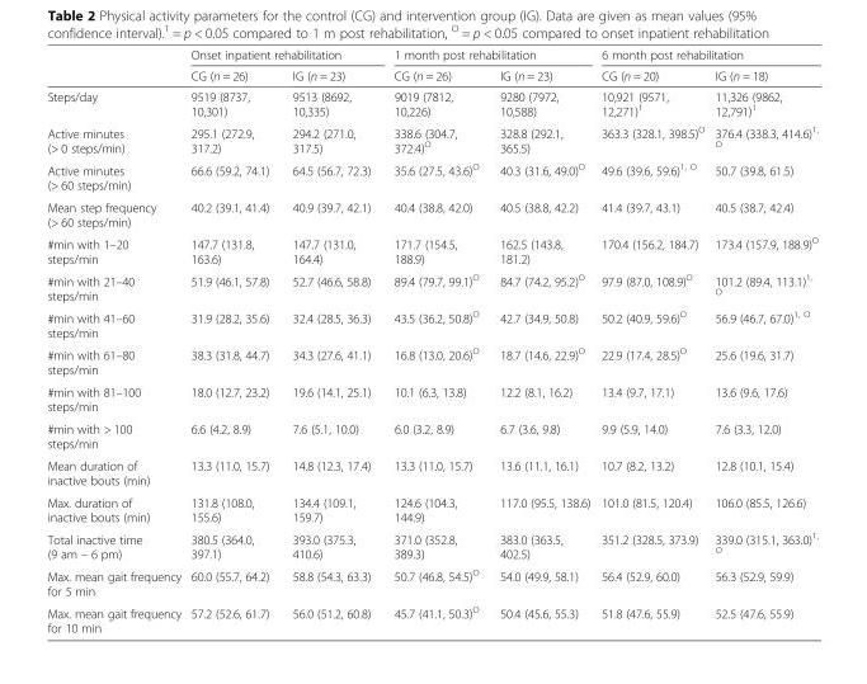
<table><thead><tr><td rowspan="2"></td><td colspan="2">Onset inpatient rehabilitation</td><td colspan="2">1 month post rehabilitation</td><td colspan="2">6 month post rehabilitation</td></tr><tr><td>CG (n = 26)</td><td>IG (n = 23)</td><td>CG (n = 26)</td><td>IG (n = 23)</td><td>CG (n = 20)</td><td>IG (n = 18)</td></tr></thead><tbody><tr><td>Steps/day</td><td>9519 (8737, 10,301)</td><td>9513 (8692, 10,335)</td><td>9019 (7812, 10,226)</td><td>9280 (7972, 10,588)</td><td>10,921 (9571, 12,271)<sup>1</sup></td><td>11,326 (9862, 12,791)<sup>1</sup></td></tr><tr><td>Active minutes (&gt; 0 steps/min)</td><td>295.1 (272.9, 317.2)</td><td>294.2 (271.0, 317.5)</td><td>338.6 (304.7, 372.4)<sup>O</sup></td><td>328.8 (292.1, 365.5)</td><td>363.3 (328.1, 398.5)<sup>O</sup></td><td>376.4 (338.3, 414.6)<sup>1, O</sup></td></tr><tr><td>Active minutes (&gt; 60 steps/min)</td><td>66.6 (59.2, 74.1)</td><td>64.5 (56.7, 72.3)</td><td>35.6 (27.5, 43.6)<sup>O</sup></td><td>40.3 (31.6, 49.0)<sup>O</sup></td><td>49.6 (39.6, 59.6)<sup>1, O</sup></td><td>50.7 (39.8, 61.5)</td></tr><tr><td>Mean step frequency (&gt; 60 steps/min)</td><td>40.2 (39.1, 41.4)</td><td>40.9 (39.7, 42.1)</td><td>40.4 (38.8, 42.0)</td><td>40.5 (38.8, 42.2)</td><td>41.4 (39.7, 43.1)</td><td>40.5 (38.7, 42.4)</td></tr><tr><td>#min with 1–20 steps/min</td><td>147.7 (131.8, 163.6)</td><td>147.7 (131.0, 164.4)</td><td>171.7 (154.5, 188.9)</td><td>162.5 (143.8, 181.2)</td><td>170.4 (156.2, 184.7)</td><td>173.4 (157.9, 188.9)<sup>O</sup></td></tr><tr><td>#min with 21–40 steps/min</td><td>51.9 (46.1, 57.8)</td><td>52.7 (46.6, 58.8)</td><td>89.4 (79.7, 99.1)<sup>O</sup></td><td>84.7 (74.2, 95.2)<sup>O</sup></td><td>97.9 (87.0, 108.9)<sup>O</sup></td><td>101.2 (89.4, 113.1)<sup>1, O</sup></td></tr><tr><td>#min with 41–60 steps/min</td><td>31.9 (28.2, 35.6)</td><td>32.4 (28.5, 36.3)</td><td>43.5 (36.2, 50.8)<sup>O</sup></td><td>42.7 (34.9, 50.8)</td><td>50.2 (40.9, 59.6)<sup>O</sup></td><td>56.9 (46.7, 67.0)<sup>1, O</sup></td></tr><tr><td>#min with 61–80 steps/min</td><td>38.3 (31.8, 44.7)</td><td>34.3 (27.6, 41.1)</td><td>16.8 (13.0, 20.6)<sup>O</sup></td><td>18.7 (14.6, 22.9)<sup>O</sup></td><td>22.9 (17.4, 28.5)<sup>O</sup></td><td>25.6 (19.6, 31.7)</td></tr><tr><td>#min with 81–100 steps/min</td><td>18.0 (12.7, 23.2)</td><td>19.6 (14.1, 25.1)</td><td>10.1 (6.3, 13.8)</td><td>12.2 (8.1, 16.2)</td><td>13.4 (9.7, 17.1)</td><td>13.6 (9.6, 17.6)</td></tr><tr><td>#min with &gt; 100 steps/min</td><td>6.6 (4.2, 8.9)</td><td>7.6 (5.1, 10.0)</td><td>6.0 (3.2, 8.9)</td><td>6.7 (3.6, 9.8)</td><td>9.9 (5.9, 14.0)</td><td>7.6 (3.3, 12.0)</td></tr><tr><td>Mean duration of inactive bouts (min)</td><td>13.3 (11.0, 15.7)</td><td>14.8 (12.3, 17.4)</td><td>13.3 (11.0, 15.7)</td><td>13.6 (11.1, 16.1)</td><td>10.7 (8.2, 13.2)</td><td>12.8 (10.1, 15.4)</td></tr><tr><td>Max. duration of inactive bouts (min)</td><td>131.8 (108.0, 155.6)</td><td>134.4 (109.1, 159.7)</td><td>124.6 (104.3, 144.9)</td><td>117.0 (95.5, 138.6)</td><td>101.0 (81.5, 120.4)</td><td>106.0 (85.5, 126.6)</td></tr><tr><td>Total inactive time (9 am – 6 pm)</td><td>380.5 (364.0, 397.1)</td><td>393.0 (375.3, 410.6)</td><td>371.0 (352.8, 389.3)</td><td>383.0 (363.5, 402.5)</td><td>351.2 (328.5, 373.9)</td><td>339.0 (315.1, 363.0)<sup>1, O</sup></td></tr><tr><td>Max. mean gait frequency for 5 min</td><td>60.0 (55.7, 64.2)</td><td>58.8 (54.3, 63.3)</td><td>50.7 (46.8, 54.5)<sup>O</sup></td><td>54.0 (49.9, 58.1)</td><td>56.4 (52.9, 60.0)</td><td>56.3 (52.9, 59.9)</td></tr><tr><td>Max. mean gait frequency for 10 min</td><td>57.2 (52.6, 61.7)</td><td>56.0 (51.2, 60.8)</td><td>45.7 (41.1, 50.3)<sup>O</sup></td><td>50.4 (45.6, 55.3)</td><td>51.8 (47.6, 55.9)</td><td>52.5 (47.6, 55.9)</td></tr></tbody></table>